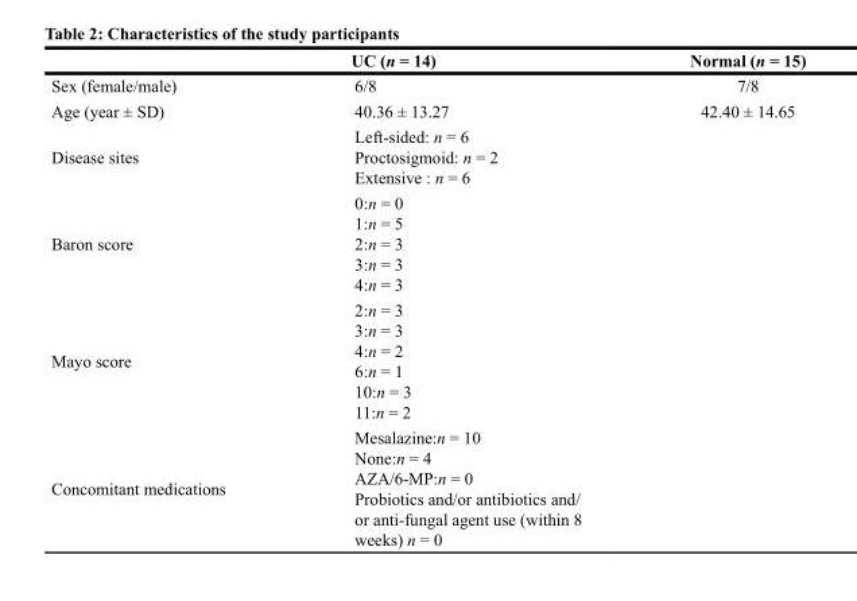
<table><thead><tr><td></td><td>UC (n = 14)</td><td>Normal (n = 15)</td></tr></thead><tbody><tr><td>Sex (female/male)</td><td>6/8</td><td>7/8</td></tr><tr><td>Age (year ± SD)</td><td>40.36 ± 13.27</td><td>42.40 ± 14.65</td></tr><tr><td rowspan="3">Disease sites</td><td>Left-sided: n = 6</td><td></td></tr><tr><td>Proctosigmoid: n = 2</td><td></td></tr><tr><td>Extensive : n = 6</td><td></td></tr><tr><td rowspan="5">Baron score</td><td>0:n = 0</td><td></td></tr><tr><td>1:n = 5</td><td></td></tr><tr><td>2:n = 3</td><td></td></tr><tr><td>3:n = 3</td><td></td></tr><tr><td>4:n = 3</td><td></td></tr><tr><td rowspan="6">Mayo score</td><td>2:n = 3</td><td></td></tr><tr><td>3:n = 3</td><td></td></tr><tr><td>4:n = 2</td><td></td></tr><tr><td>6:n = 1</td><td></td></tr><tr><td>10:n = 3</td><td></td></tr><tr><td>11:n = 2</td><td></td></tr><tr><td rowspan="4">Concomitant medications</td><td>Mesalazine:n = 10</td><td></td></tr><tr><td>None:n = 4</td><td></td></tr><tr><td>AZA/6-MP:n = 0</td><td></td></tr><tr><td>Probiotics and/or antibiotics and/ or anti-fungal agent use (within 8 weeks) n = 0</td><td></td></tr></tbody></table>